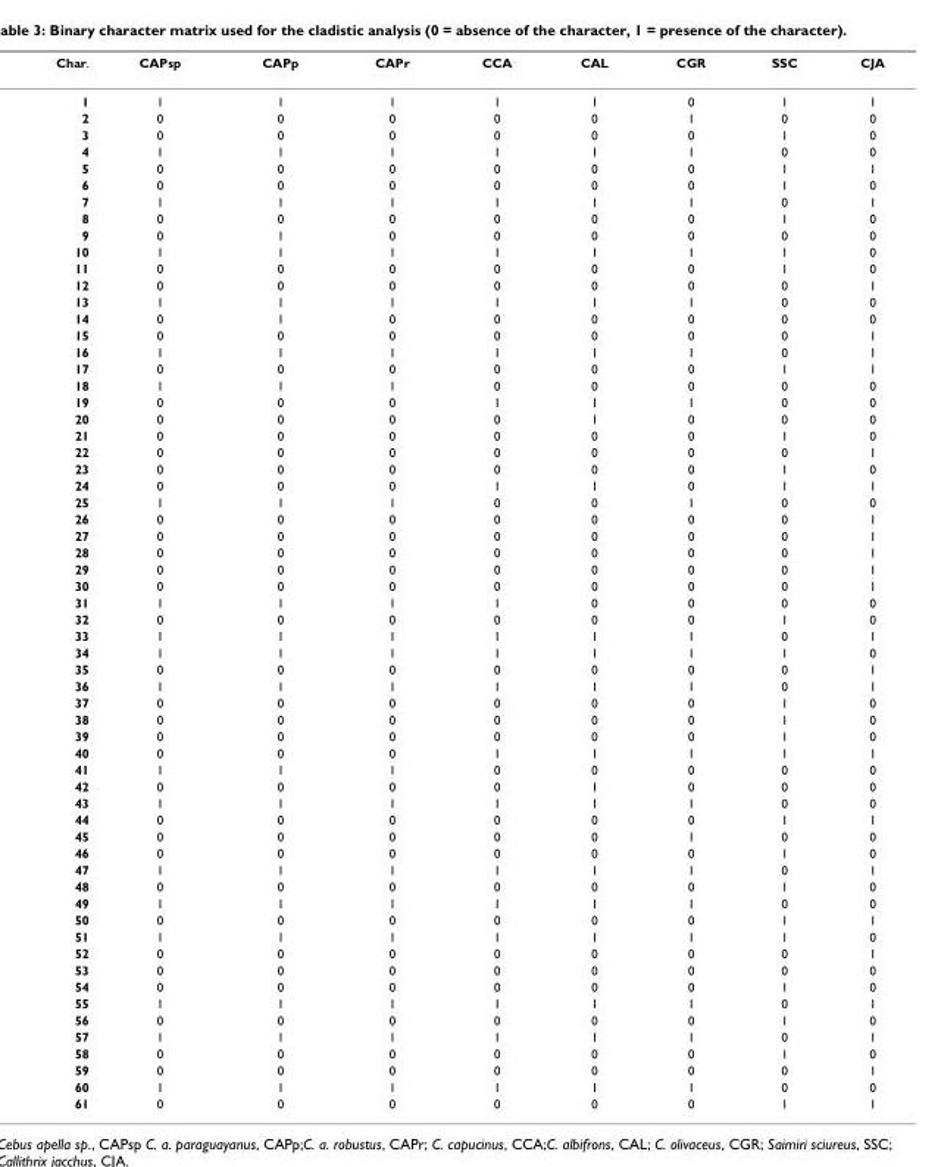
<table><thead><tr><td>Char.</td><td>CAPsp</td><td>CAPp</td><td>CAPr</td><td>CCA</td><td>CAL</td><td>CGR</td><td>SSC</td><td>CJA</td></tr></thead><tbody><tr><td>1</td><td>1</td><td>1</td><td>1</td><td>1</td><td>1</td><td>0</td><td>1</td><td>1</td></tr><tr><td>2</td><td>0</td><td>0</td><td>0</td><td>0</td><td>0</td><td>1</td><td>0</td><td>0</td></tr><tr><td>3</td><td>0</td><td>0</td><td>0</td><td>0</td><td>0</td><td>0</td><td>1</td><td>0</td></tr><tr><td>4</td><td>1</td><td>1</td><td>1</td><td>1</td><td>1</td><td>1</td><td>0</td><td>0</td></tr><tr><td>5</td><td>0</td><td>0</td><td>0</td><td>0</td><td>0</td><td>0</td><td>1</td><td>1</td></tr><tr><td>6</td><td>0</td><td>0</td><td>0</td><td>0</td><td>0</td><td>0</td><td>1</td><td>0</td></tr><tr><td>7</td><td>1</td><td>1</td><td>1</td><td>1</td><td>1</td><td>1</td><td>0</td><td>1</td></tr><tr><td>8</td><td>0</td><td>0</td><td>0</td><td>0</td><td>0</td><td>0</td><td>1</td><td>0</td></tr><tr><td>9</td><td>0</td><td>1</td><td>0</td><td>0</td><td>0</td><td>0</td><td>0</td><td>0</td></tr><tr><td>10</td><td>1</td><td>1</td><td>1</td><td>1</td><td>1</td><td>1</td><td>1</td><td>0</td></tr><tr><td>11</td><td>0</td><td>0</td><td>0</td><td>0</td><td>0</td><td>0</td><td>1</td><td>0</td></tr><tr><td>12</td><td>0</td><td>0</td><td>0</td><td>0</td><td>0</td><td>0</td><td>0</td><td>1</td></tr><tr><td>13</td><td>1</td><td>1</td><td>1</td><td>1</td><td>1</td><td>1</td><td>0</td><td>0</td></tr><tr><td>14</td><td>0</td><td>1</td><td>0</td><td>0</td><td>0</td><td>0</td><td>0</td><td>0</td></tr><tr><td>15</td><td>0</td><td>0</td><td>0</td><td>0</td><td>0</td><td>0</td><td>0</td><td>1</td></tr><tr><td>16</td><td>1</td><td>1</td><td>1</td><td>1</td><td>1</td><td>1</td><td>0</td><td>1</td></tr><tr><td>17</td><td>0</td><td>0</td><td>0</td><td>0</td><td>0</td><td>0</td><td>1</td><td>1</td></tr><tr><td>18</td><td>1</td><td>1</td><td>1</td><td>0</td><td>0</td><td>0</td><td>0</td><td>0</td></tr><tr><td>19</td><td>0</td><td>0</td><td>0</td><td>1</td><td>1</td><td>1</td><td>0</td><td>0</td></tr><tr><td>20</td><td>0</td><td>0</td><td>0</td><td>0</td><td>1</td><td>0</td><td>0</td><td>0</td></tr><tr><td>21</td><td>0</td><td>0</td><td>0</td><td>0</td><td>0</td><td>0</td><td>1</td><td>0</td></tr><tr><td>22</td><td>0</td><td>0</td><td>0</td><td>0</td><td>0</td><td>0</td><td>0</td><td>1</td></tr><tr><td>23</td><td>0</td><td>0</td><td>0</td><td>0</td><td>0</td><td>0</td><td>1</td><td>0</td></tr><tr><td>24</td><td>0</td><td>0</td><td>0</td><td>1</td><td>1</td><td>0</td><td>1</td><td>1</td></tr><tr><td>25</td><td>1</td><td>1</td><td>1</td><td>0</td><td>0</td><td>1</td><td>0</td><td>0</td></tr><tr><td>26</td><td>0</td><td>0</td><td>0</td><td>0</td><td>0</td><td>0</td><td>0</td><td>1</td></tr><tr><td>27</td><td>0</td><td>0</td><td>0</td><td>0</td><td>0</td><td>0</td><td>0</td><td>1</td></tr><tr><td>28</td><td>0</td><td>0</td><td>0</td><td>0</td><td>0</td><td>0</td><td>0</td><td>1</td></tr><tr><td>29</td><td>0</td><td>0</td><td>0</td><td>0</td><td>0</td><td>0</td><td>0</td><td>1</td></tr><tr><td>30</td><td>0</td><td>0</td><td>0</td><td>0</td><td>0</td><td>0</td><td>0</td><td>1</td></tr><tr><td>31</td><td>1</td><td>1</td><td>1</td><td>1</td><td>0</td><td>0</td><td>0</td><td>0</td></tr><tr><td>32</td><td>0</td><td>0</td><td>0</td><td>0</td><td>0</td><td>0</td><td>1</td><td>0</td></tr><tr><td>33</td><td>1</td><td>1</td><td>1</td><td>1</td><td>1</td><td>1</td><td>0</td><td>1</td></tr><tr><td>34</td><td>1</td><td>1</td><td>1</td><td>1</td><td>1</td><td>1</td><td>1</td><td>0</td></tr><tr><td>35</td><td>0</td><td>0</td><td>0</td><td>0</td><td>0</td><td>0</td><td>0</td><td>1</td></tr><tr><td>36</td><td>1</td><td>1</td><td>1</td><td>1</td><td>1</td><td>1</td><td>0</td><td>1</td></tr><tr><td>37</td><td>0</td><td>0</td><td>0</td><td>0</td><td>0</td><td>0</td><td>1</td><td>0</td></tr><tr><td>38</td><td>0</td><td>0</td><td>0</td><td>0</td><td>0</td><td>0</td><td>1</td><td>0</td></tr><tr><td>39</td><td>0</td><td>0</td><td>0</td><td>0</td><td>0</td><td>0</td><td>1</td><td>0</td></tr><tr><td>40</td><td>0</td><td>0</td><td>0</td><td>1</td><td>1</td><td>1</td><td>1</td><td>1</td></tr><tr><td>41</td><td>1</td><td>1</td><td>1</td><td>0</td><td>0</td><td>0</td><td>0</td><td>0</td></tr><tr><td>42</td><td>0</td><td>0</td><td>0</td><td>0</td><td>1</td><td>0</td><td>0</td><td>0</td></tr><tr><td>43</td><td>1</td><td>1</td><td>1</td><td>1</td><td>1</td><td>1</td><td>0</td><td>0</td></tr><tr><td>44</td><td>0</td><td>0</td><td>0</td><td>0</td><td>0</td><td>0</td><td>1</td><td>1</td></tr><tr><td>45</td><td>0</td><td>0</td><td>0</td><td>0</td><td>0</td><td>1</td><td>0</td><td>0</td></tr><tr><td>46</td><td>0</td><td>0</td><td>0</td><td>0</td><td>0</td><td>0</td><td>1</td><td>0</td></tr><tr><td>47</td><td>1</td><td>1</td><td>1</td><td>1</td><td>1</td><td>1</td><td>0</td><td>1</td></tr><tr><td>48</td><td>0</td><td>0</td><td>0</td><td>0</td><td>0</td><td>0</td><td>1</td><td>0</td></tr><tr><td>49</td><td>1</td><td>1</td><td>1</td><td>1</td><td>1</td><td>1</td><td>0</td><td>0</td></tr><tr><td>50</td><td>0</td><td>0</td><td>0</td><td>0</td><td>0</td><td>0</td><td>1</td><td>1</td></tr><tr><td>51</td><td>1</td><td>1</td><td>1</td><td>1</td><td>1</td><td>1</td><td>1</td><td>0</td></tr><tr><td>52</td><td>0</td><td>0</td><td>0</td><td>0</td><td>0</td><td>0</td><td>0</td><td>1</td></tr><tr><td>53</td><td>0</td><td>0</td><td>0</td><td>0</td><td>0</td><td>0</td><td>0</td><td>0</td></tr><tr><td>54</td><td>0</td><td>0</td><td>0</td><td>0</td><td>0</td><td>0</td><td>1</td><td>0</td></tr><tr><td>55</td><td>1</td><td>1</td><td>1</td><td>1</td><td>1</td><td>1</td><td>0</td><td>1</td></tr><tr><td>56</td><td>0</td><td>0</td><td>0</td><td>0</td><td>0</td><td>0</td><td>1</td><td>0</td></tr><tr><td>57</td><td>1</td><td>1</td><td>1</td><td>1</td><td>1</td><td>1</td><td>0</td><td>1</td></tr><tr><td>58</td><td>0</td><td>0</td><td>0</td><td>0</td><td>0</td><td>0</td><td>1</td><td>0</td></tr><tr><td>59</td><td>0</td><td>0</td><td>0</td><td>0</td><td>0</td><td>0</td><td>0</td><td>1</td></tr><tr><td>60</td><td>1</td><td>1</td><td>1</td><td>1</td><td>1</td><td>1</td><td>0</td><td>0</td></tr><tr><td>61</td><td>0</td><td>0</td><td>0</td><td>0</td><td>0</td><td>0</td><td>1</td><td>1</td></tr></tbody></table>